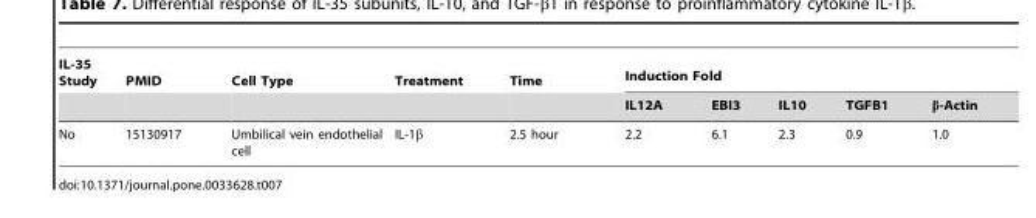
<table><thead><tr><td rowspan="2">IL-35 Study</td><td rowspan="2">PMID</td><td rowspan="2">Cell Type</td><td rowspan="2">Treatment</td><td rowspan="2">Time</td><td colspan="5">Induction Fold</td></tr><tr><td>IL12A</td><td>EBI3</td><td>IL10</td><td>TGFB1</td><td>β-Actin</td></tr></thead><tbody><tr><td>No</td><td>15130917</td><td>Umbilical vein endothelial cell</td><td>IL-1β</td><td>2.5 hour</td><td>2.2</td><td>6.1</td><td>2.3</td><td>0.9</td><td>1.0</td></tr></tbody></table>